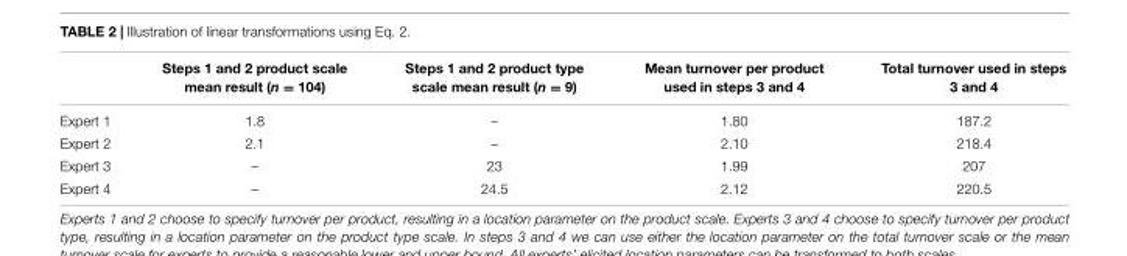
<table><thead><tr><td></td><td>Steps 1 and 2 product scale mean result (n = 104)</td><td>Steps 1 and 2 product type scale mean result (n = 9)</td><td>Mean turnover per product used in steps 3 and 4</td><td>Total turnover used in steps 3 and 4</td></tr></thead><tbody><tr><td>Expert 1</td><td>1.8</td><td>–</td><td>1.80</td><td>187.2</td></tr><tr><td>Expert 2</td><td>2.1</td><td>–</td><td>2.10</td><td>218.4</td></tr><tr><td>Expert 3</td><td>–</td><td>23</td><td>1.99</td><td>207</td></tr><tr><td>Expert 4</td><td>–</td><td>24.5</td><td>2.12</td><td>220.5</td></tr></tbody></table>